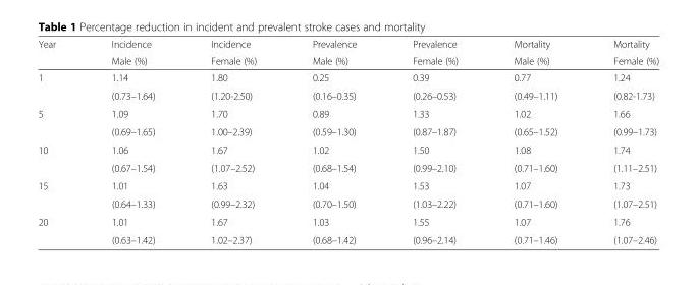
<table><thead><tr><td rowspan="2">Year</td><td rowspan="2">Incidence Male (%)</td><td rowspan="2">Incidence Female (%)</td><td rowspan="2">Prevalence Male (%)</td><td rowspan="2">Prevalence Female (%)</td><td rowspan="2">Mortality Male (%)</td><td rowspan="2">Mortality Female (%)</td></tr><tr></tr></thead><tbody><tr><td rowspan="2">1</td><td>1.14</td><td>1.80</td><td>0.25</td><td>0.39</td><td>0.77</td><td>1.24</td></tr><tr><td>(0.73–1.64)</td><td>(1.20-2.50)</td><td>(0.16–0.35)</td><td>(0.26–0.53)</td><td>(0.49–1.11)</td><td>(0.82-1.73)</td></tr><tr><td rowspan="2">5</td><td>1.09</td><td>1.70</td><td>0.89</td><td>1.33</td><td>1.02</td><td>1.66</td></tr><tr><td>(0.69–1.65)</td><td>1.00–2.39)</td><td>(0.59–1.30)</td><td>(0.87–1.87)</td><td>(0.65–1.52)</td><td>(0.99–1.73)</td></tr><tr><td rowspan="2">10</td><td>1.06</td><td>1.67</td><td>1.02</td><td>1.50</td><td>1.08</td><td>1.74</td></tr><tr><td>(0.67–1.54)</td><td>(1.07–2.52)</td><td>(0.68–1.54)</td><td>(0.99–2.10)</td><td>(0.71–1.60)</td><td>(1.11–2.51)</td></tr><tr><td rowspan="2">15</td><td>1.01</td><td>1.63</td><td>1.04</td><td>1.53</td><td>1.07</td><td>1.73</td></tr><tr><td>(0.64–1.33)</td><td>(0.99–2.32)</td><td>(0.70–1.50)</td><td>(1.03–2.22)</td><td>(0.71–1.60)</td><td>(1.07–2.51)</td></tr><tr><td rowspan="2">20</td><td>1.01</td><td>1.67</td><td>1.03</td><td>1.55</td><td>1.07</td><td>1.76</td></tr><tr><td>(0.63–1.42)</td><td>1.02–2.37)</td><td>(0.68–1.42)</td><td>(0.96–2.14)</td><td>(0.71–1.46)</td><td>(1.07–2.46)</td></tr></tbody></table>